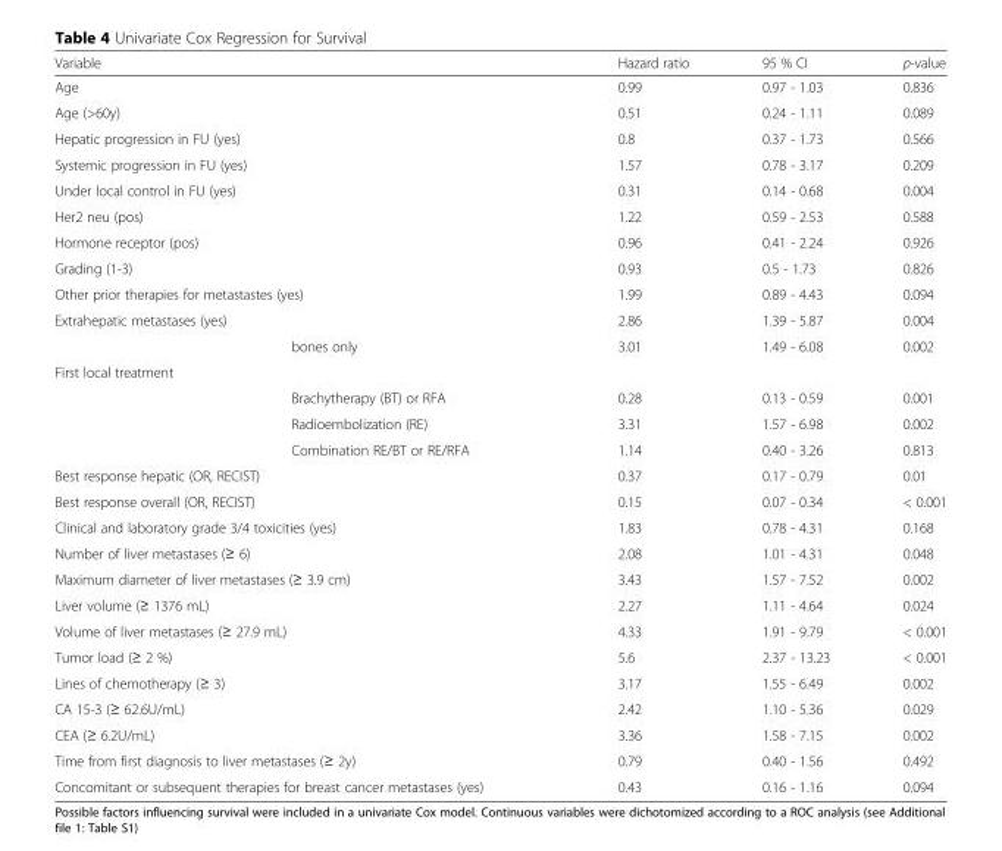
<table><thead><tr><td colspan="2">Variable</td><td rowspan="2">Hazard ratio 0.99</td><td rowspan="2">95 % CI 0.97 - 1.03</td><td rowspan="2">p-value 0.836</td></tr><tr><td>Age</td><td></td></tr></thead><tbody><tr><td>Age (&gt;60y)</td><td></td><td>0.51</td><td>0.24 - 1.11</td><td>0.089</td></tr><tr><td colspan="2">Hepatic progression in FU (yes)</td><td>0.8</td><td>0.37 - 1.73</td><td>0.566</td></tr><tr><td colspan="2">Systemic progression in FU (yes)</td><td>1.57</td><td>0.78 - 3.17</td><td>0.209</td></tr><tr><td colspan="2">Under local control in FU (yes)</td><td>0.31</td><td>0.14 - 0.68</td><td>0.004</td></tr><tr><td>Her2 neu (pos)</td><td></td><td>1.22</td><td>0.59 - 2.53</td><td>0.588</td></tr><tr><td colspan="2">Hormone receptor (pos)</td><td>0.96</td><td>0.41 - 2.24</td><td>0.926</td></tr><tr><td>Grading (1-3)</td><td></td><td>0.93</td><td>0.5 - 1.73</td><td>0.826</td></tr><tr><td colspan="2">Other prior therapies for metastastes (yes)</td><td>1.99</td><td>0.89 - 4.43</td><td>0.094</td></tr><tr><td colspan="2">Extrahepatic metastases (yes)</td><td>2.86</td><td>1.39 - 5.87</td><td>0.004</td></tr><tr><td></td><td>bones only</td><td>3.01</td><td>1.49 - 6.08</td><td>0.002</td></tr><tr><td colspan="5">First local treatment</td></tr><tr><td></td><td>Brachytherapy (BT) or RFA</td><td>0.28</td><td>0.13 - 0.59</td><td>0.001</td></tr><tr><td></td><td>Radioembolization (RE)</td><td>3.31</td><td>1.57 - 6.98</td><td>0.002</td></tr><tr><td></td><td>Combination RE/BT or RE/RFA</td><td>1.14</td><td>0.40 - 3.26</td><td>0.813</td></tr><tr><td colspan="2">Best response hepatic (OR, RECIST)</td><td>0.37</td><td>0.17 - 0.79</td><td>0.01</td></tr><tr><td colspan="2">Best response overall (OR, RECIST)</td><td>0.15</td><td>0.07 - 0.34</td><td>&lt; 0.001</td></tr><tr><td colspan="2">Clinical and laboratory grade 3/4 toxicities (yes)</td><td>1.83</td><td>0.78 - 4.31</td><td>0.168</td></tr><tr><td colspan="2">Number of liver metastases (≥ 6)</td><td>2.08</td><td>1.01 - 4.31</td><td>0.048</td></tr><tr><td colspan="2">Maximum diameter of liver metastases (≥ 3.9 cm)</td><td>3.43</td><td>1.57 - 7.52</td><td>0.002</td></tr><tr><td colspan="2">Liver volume (≥ 1376 mL)</td><td>2.27</td><td>1.11 - 4.64</td><td>0.024</td></tr><tr><td colspan="2">Volume of liver metastases (≥ 27.9 mL)</td><td>4.33</td><td>1.91 - 9.79</td><td>&lt; 0.001</td></tr><tr><td colspan="2">Tumor load (≥ 2 %)</td><td>5.6</td><td>2.37 - 13.23</td><td>&lt; 0.001</td></tr><tr><td colspan="2">Lines of chemotherapy (≥ 3)</td><td>3.17</td><td>1.55 - 6.49</td><td>0.002</td></tr><tr><td colspan="2">CA 15-3 (≥ 62.6U/mL)</td><td>2.42</td><td>1.10 - 5.36</td><td>0.029</td></tr><tr><td colspan="2">CEA (≥ 6.2U/mL)</td><td>3.36</td><td>1.58 - 7.15</td><td>0.002</td></tr><tr><td colspan="2">Time from first diagnosis to liver metastases (≥ 2y)</td><td>0.79</td><td>0.40 - 1.56</td><td>0.492</td></tr><tr><td colspan="2">Concomitant or subsequent therapies for breast cancer metastases (yes)</td><td>0.43</td><td>0.16 - 1.16</td><td>0.094</td></tr></tbody></table>